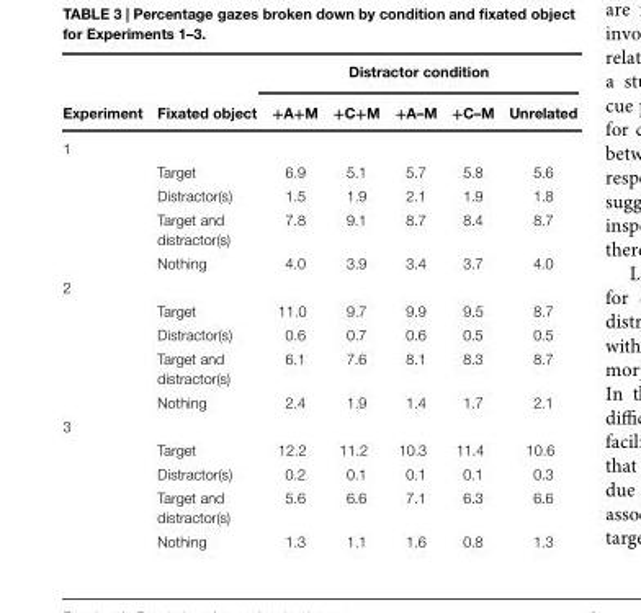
<table><thead><tr><td rowspan="2">Experiment</td><td rowspan="2">Fixated object</td><td colspan="5">Distractor condition</td></tr><tr><td>+A+M</td><td>+C+M</td><td>+A–M</td><td>+C–M</td><td>Unrelated</td></tr></thead><tbody><tr><td colspan="7">1</td></tr><tr><td></td><td>Target</td><td>6.9</td><td>5.1</td><td>5.7</td><td>5.8</td><td>5.6</td></tr><tr><td></td><td>Distractor(s)</td><td>1.5</td><td>1.9</td><td>2.1</td><td>1.9</td><td>1.8</td></tr><tr><td></td><td>Target and distractor(s)</td><td>7.8</td><td>9.1</td><td>8.7</td><td>8.4</td><td>8.7</td></tr><tr><td></td><td>Nothing</td><td>4.0</td><td>3.9</td><td>3.4</td><td>3.7</td><td>4.0</td></tr><tr><td colspan="7">2</td></tr><tr><td></td><td>Target</td><td>11.0</td><td>9.7</td><td>9.9</td><td>9.5</td><td>8.7</td></tr><tr><td></td><td>Distractor(s)</td><td>0.6</td><td>0.7</td><td>0.6</td><td>0.5</td><td>0.5</td></tr><tr><td></td><td>Target and distractor(s)</td><td>6.1</td><td>7.6</td><td>8.1</td><td>8.3</td><td>8.7</td></tr><tr><td></td><td>Nothing</td><td>2.4</td><td>1.9</td><td>1.4</td><td>1.7</td><td>2.1</td></tr><tr><td colspan="7">3</td></tr><tr><td></td><td>Target</td><td>12.2</td><td>11.2</td><td>10.3</td><td>11.4</td><td>10.6</td></tr><tr><td></td><td>Distractor(s)</td><td>0.2</td><td>0.1</td><td>0.1</td><td>0.1</td><td>0.3</td></tr><tr><td></td><td>Target and distractor(s)</td><td>5.6</td><td>6.6</td><td>7.1</td><td>6.3</td><td>6.6</td></tr><tr><td></td><td>Nothing</td><td>1.3</td><td>1.1</td><td>1.6</td><td>0.8</td><td>1.3</td></tr></tbody></table>